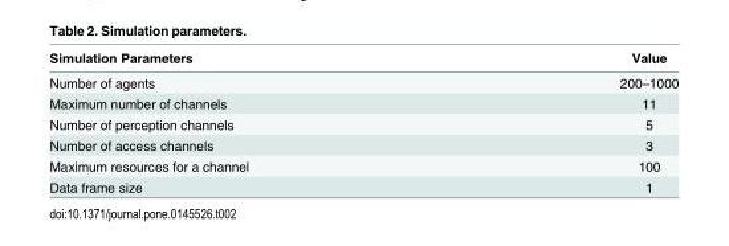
<table><thead><tr><td>Simulation Parameters</td><td>Value</td></tr></thead><tbody><tr><td>Number of agents</td><td>200–1000</td></tr><tr><td>Maximum number of channels</td><td>11</td></tr><tr><td>Number of perception channels</td><td>5</td></tr><tr><td>Number of access channels</td><td>3</td></tr><tr><td>Maximum resources for a channel</td><td>100</td></tr><tr><td>Data frame size</td><td>1</td></tr></tbody></table>